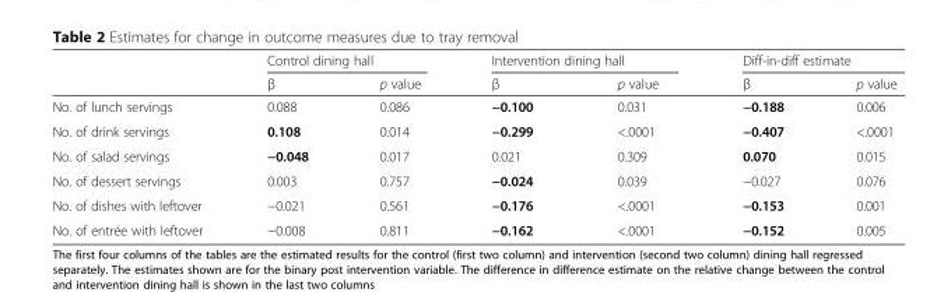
<table><thead><tr><td rowspan="2"></td><td colspan="2">Control dining hall</td><td colspan="2">Intervention dining hall</td><td colspan="2">Diff-in-diff estimate</td></tr><tr><td>β</td><td>p value</td><td>β</td><td>p value</td><td>β</td><td>p value</td></tr></thead><tbody><tr><td>No. of lunch servings</td><td>0.088</td><td>0.086</td><td>−0.100</td><td>0.031</td><td>−0.188</td><td>0.006</td></tr><tr><td>No. of drink servings</td><td>0.108</td><td>0.014</td><td>−0.299</td><td>&lt;.0001</td><td>−0.407</td><td>&lt;.0001</td></tr><tr><td>No. of salad servings</td><td>−0.048</td><td>0.017</td><td>0.021</td><td>0.309</td><td>0.070</td><td>0.015</td></tr><tr><td>No. of dessert servings</td><td>0.003</td><td>0.757</td><td>−0.024</td><td>0.039</td><td>−0.027</td><td>0.076</td></tr><tr><td>No. of dishes with leftover</td><td>−0.021</td><td>0.561</td><td>−0.176</td><td>&lt;.0001</td><td>−0.153</td><td>0.001</td></tr><tr><td>No. of entrée with leftover</td><td>−0.008</td><td>0.811</td><td>−0.162</td><td>&lt;.0001</td><td>−0.152</td><td>0.005</td></tr></tbody></table>